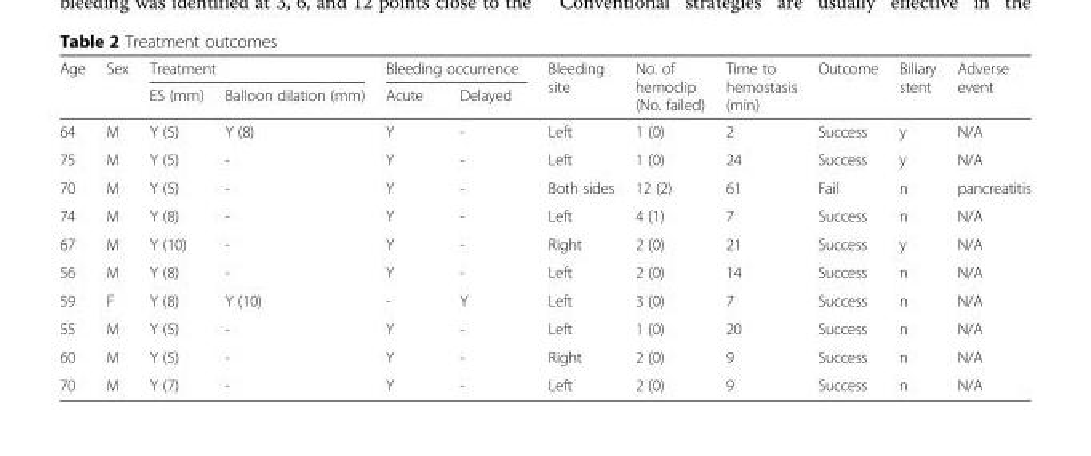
<table><thead><tr><td rowspan="2">Age</td><td rowspan="2">Sex</td><td colspan="2">Treatment</td><td colspan="2">Bleeding occurrence</td><td rowspan="2">Bleeding site</td><td rowspan="2">No. of hemoclip (No. failed)</td><td rowspan="2">Time to hemostasis (min)</td><td rowspan="2">Outcome</td><td rowspan="2">Biliary stent</td><td rowspan="2">Adverse event</td></tr><tr><td>ES (mm)</td><td>Balloon dilation (mm)</td><td>Acute</td><td>Delayed</td></tr></thead><tbody><tr><td>64</td><td>M</td><td>Y (5)</td><td>Y (8)</td><td>Y</td><td>-</td><td>Left</td><td>1 (0)</td><td>2</td><td>Success</td><td>y</td><td>N/A</td></tr><tr><td>75</td><td>M</td><td>Y (5)</td><td>-</td><td>Y</td><td>-</td><td>Left</td><td>1 (0)</td><td>24</td><td>Success</td><td>y</td><td>N/A</td></tr><tr><td>70</td><td>M</td><td>Y (5)</td><td>-</td><td>Y</td><td>-</td><td>Both sides</td><td>12 (2)</td><td>61</td><td>Fail</td><td>n</td><td>pancreatitis</td></tr><tr><td>74</td><td>M</td><td>Y (8)</td><td>-</td><td>Y</td><td>-</td><td>Left</td><td>4 (1)</td><td>7</td><td>Success</td><td>n</td><td>N/A</td></tr><tr><td>67</td><td>M</td><td>Y (10)</td><td>-</td><td>Y</td><td>-</td><td>Right</td><td>2 (0)</td><td>21</td><td>Success</td><td>y</td><td>N/A</td></tr><tr><td>56</td><td>M</td><td>Y (8)</td><td>-</td><td>Y</td><td>-</td><td>Left</td><td>2 (0)</td><td>14</td><td>Success</td><td>n</td><td>N/A</td></tr><tr><td>59</td><td>F</td><td>Y (8)</td><td>Y (10)</td><td>-</td><td>Y</td><td>Left</td><td>3 (0)</td><td>7</td><td>Success</td><td>n</td><td>N/A</td></tr><tr><td>55</td><td>M</td><td>Y (5)</td><td>-</td><td>Y</td><td>-</td><td>Left</td><td>1 (0)</td><td>20</td><td>Success</td><td>n</td><td>N/A</td></tr><tr><td>60</td><td>M</td><td>Y (5)</td><td>-</td><td>Y</td><td>-</td><td>Right</td><td>2 (0)</td><td>9</td><td>Success</td><td>n</td><td>N/A</td></tr><tr><td>70</td><td>M</td><td>Y (7)</td><td>-</td><td>Y</td><td>-</td><td>Left</td><td>2 (0)</td><td>9</td><td>Success</td><td>n</td><td>N/A</td></tr></tbody></table>